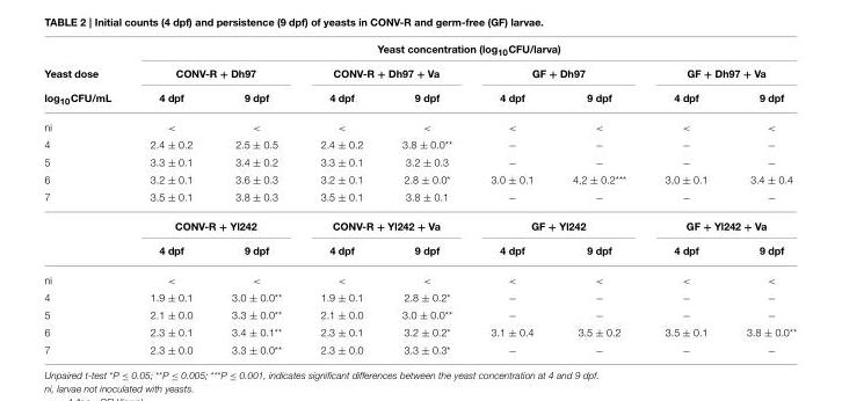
<table><thead><tr><td rowspan="3">Yeast dose log<sub>10</sub>CFU/mL</td><td colspan="8">Yeast concentration (log<sub>10</sub>CFU/larva)</td></tr><tr><td colspan="2">CONV-R + Dh97</td><td colspan="2">CONV-R + Dh97 + Va</td><td colspan="2">GF + Dh97</td><td colspan="2">GF + Dh97 + Va</td></tr><tr><td>4 dpf</td><td>9 dpf</td><td>4 dpf</td><td>9 dpf</td><td>4 dpf</td><td>9 dpf</td><td>4 dpf</td><td>9 dpf</td></tr></thead><tbody><tr><td>ni</td><td>&lt;</td><td>&lt;</td><td>&lt;</td><td>&lt;</td><td>&lt;</td><td>&lt;</td><td>&lt;</td><td>&lt;</td></tr><tr><td>4</td><td>2.4 ± 0.2</td><td>2.5 ± 0.5</td><td>2.4 ± 0.2</td><td>3.8 ± 0.0**</td><td>−</td><td>−</td><td>−</td><td>−</td></tr><tr><td>5</td><td>3.3 ± 0.1</td><td>3.4 ± 0.2</td><td>3.3 ± 0.1</td><td>3.2 ± 0.3</td><td>−</td><td>−</td><td>−</td><td>−</td></tr><tr><td>6</td><td>3.2 ± 0.1</td><td>3.6 ± 0.3</td><td>3.2 ± 0.1</td><td>2.8 ± 0.0*</td><td>3.0 ± 0.1</td><td>4,2 ± 0.2***</td><td>3,0 ± 0.1</td><td>3.4 ± 0.4</td></tr><tr><td rowspan="3">7</td><td>3.5 ± 0.1</td><td>3.8 ± 0.3</td><td>3.5 ± 0.1</td><td>3.8 ± 0.1</td><td>−</td><td>−</td><td>−</td><td>−</td></tr><tr><td colspan="2">CONV-R + Yl242</td><td colspan="2">CONV-R + Yl242 + Va</td><td colspan="2">GF + Yl242</td><td colspan="2">GF + Yl242 + Va</td></tr><tr><td>4 dpf</td><td>9 dpf</td><td>4 dpf</td><td>9 dpf</td><td>4 dpf</td><td>9 dpf</td><td>4 dpf</td><td>9 dpf</td></tr><tr><td>ni</td><td>&lt;</td><td>&lt;</td><td>&lt;</td><td>&lt;</td><td>&lt;</td><td>&lt;</td><td>&lt;</td><td>&lt;</td></tr><tr><td>4</td><td>1.9 ± 0.1</td><td>3.0 ± 0.0**</td><td>1.9 ± 0.1</td><td>2.8 ± 0.2*</td><td>−</td><td>−</td><td>−</td><td>−</td></tr><tr><td>5</td><td>2.1 ± 0.0</td><td>3.3 ± 0.0**</td><td>2.1 ± 0.0</td><td>3.0 ± 0.0**</td><td>−</td><td>−</td><td>−</td><td>−</td></tr><tr><td>6</td><td>2.3 ± 0.1</td><td>3.4 ± 0.1**</td><td>2.3 ± 0.1</td><td>3.2 ± 0.2*</td><td>3.1 ± 0.4</td><td>3.5 ± 0.2</td><td>3.5 ± 0.1</td><td>3.8 ± 0.0**</td></tr><tr><td>7</td><td>2.3 ± 0.0</td><td>3.3 ± 0.0**</td><td>2.3 ± 0.0</td><td>3.3 ± 0.3*</td><td>−</td><td>−</td><td>−</td><td>−</td></tr></tbody></table>